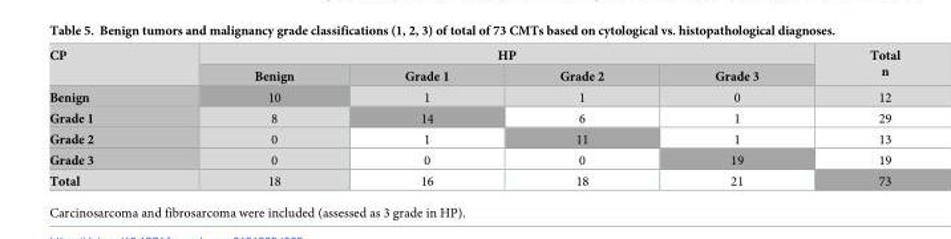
<table><thead><tr><td rowspan="2">CP</td><td colspan="4">HP</td><td rowspan="2">Total n</td></tr><tr><td>Benign</td><td>Grade 1</td><td>Grade 2</td><td>Grade 3</td></tr></thead><tbody><tr><td>Benign</td><td>10</td><td>1</td><td>1</td><td>0</td><td>12</td></tr><tr><td>Grade 1</td><td>8</td><td>14</td><td>6</td><td>1</td><td>29</td></tr><tr><td>Grade 2</td><td>0</td><td>1</td><td>11</td><td>1</td><td>13</td></tr><tr><td>Grade 3</td><td>0</td><td>0</td><td>0</td><td>19</td><td>19</td></tr><tr><td>Total</td><td>18</td><td>16</td><td>18</td><td>21</td><td>73</td></tr></tbody></table>